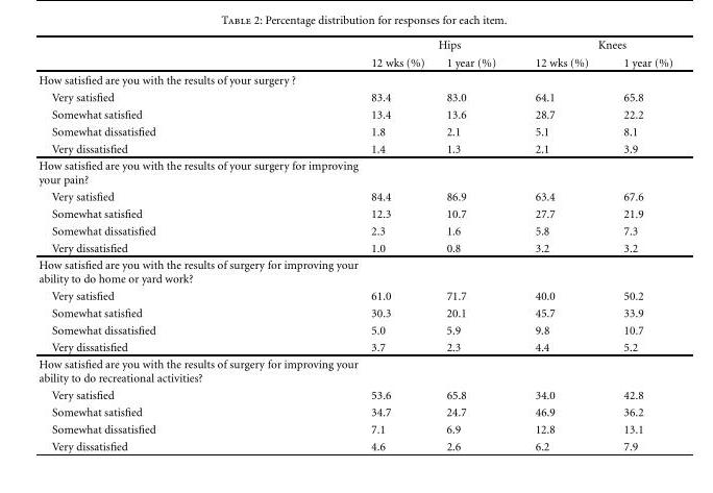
<table><thead><tr><td rowspan="2"></td><td colspan="2">Hips</td><td colspan="2">Knees</td></tr><tr><td>12 wks (%)</td><td>1 year (%)</td><td>12 wks (%)</td><td>1 year (%)</td></tr></thead><tbody><tr><td colspan="5">How satisfied are you with the results of your surgery ?</td></tr><tr><td>Very satisfied</td><td>83.4</td><td>83.0</td><td>64.1</td><td>65.8</td></tr><tr><td>Somewhat satisfied</td><td>13.4</td><td>13.6</td><td>28.7</td><td>22.2</td></tr><tr><td>Somewhat dissatisfied</td><td>1.8</td><td>2.1</td><td>5.1</td><td>8.1</td></tr><tr><td>Very dissatisfied</td><td>1.4</td><td>1.3</td><td>2.1</td><td>3.9</td></tr><tr><td colspan="5">How satisfied are you with the results of your surgery for improving your pain?</td></tr><tr><td>Very satisfied</td><td>84.4</td><td>86.9</td><td>63.4</td><td>67.6</td></tr><tr><td>Somewhat satisfied</td><td>12.3</td><td>10.7</td><td>27.7</td><td>21.9</td></tr><tr><td>Somewhat dissatisfied</td><td>2.3</td><td>1.6</td><td>5.8</td><td>7.3</td></tr><tr><td>Very dissatisfied</td><td>1.0</td><td>0.8</td><td>3.2</td><td>3.2</td></tr><tr><td colspan="5">How satisfied are you with the results of surgery for improving your ability to do home or yard work?</td></tr><tr><td>Very satisfied</td><td>61.0</td><td>71.7</td><td>40.0</td><td>50.2</td></tr><tr><td>Somewhat satisfied</td><td>30.3</td><td>20.1</td><td>45.7</td><td>33.9</td></tr><tr><td>Somewhat dissatisfied</td><td>5.0</td><td>5.9</td><td>9.8</td><td>10.7</td></tr><tr><td>Very dissatisfied</td><td>3.7</td><td>2.3</td><td>4.4</td><td>5.2</td></tr><tr><td colspan="5">How satisfied are you with the results of surgery for improving your ability to do recreational activities?</td></tr><tr><td>Very satisfied</td><td>53.6</td><td>65.8</td><td>34.0</td><td>42.8</td></tr><tr><td>Somewhat satisfied</td><td>34.7</td><td>24.7</td><td>46.9</td><td>36.2</td></tr><tr><td>Somewhat dissatisfied</td><td>7.1</td><td>6.9</td><td>12.8</td><td>13.1</td></tr><tr><td>Very dissatisfied</td><td>4.6</td><td>2.6</td><td>6.2</td><td>7.9</td></tr></tbody></table>